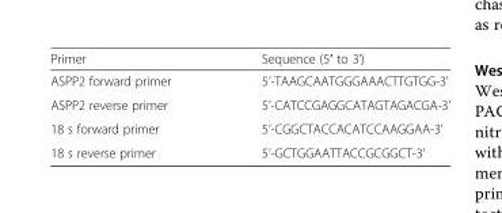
<table><thead><tr><td>Primer</td><td>Sequence (5′ to 3’)</td></tr></thead><tbody><tr><td>ASPP2 forward primer</td><td>5’-TAAGCAATGGGAAACTTGTGG-3’</td></tr><tr><td>ASPP2 reverse primer</td><td>5’-CATCCGAGGCATAGTAGACGA-3’</td></tr><tr><td>18 s forward primer</td><td>5’-CGGCTACCACATCCAAGGAA-3’</td></tr><tr><td>18 s reverse primer</td><td>5’-GCTGGAATTACCGCGGCT-3’</td></tr></tbody></table>